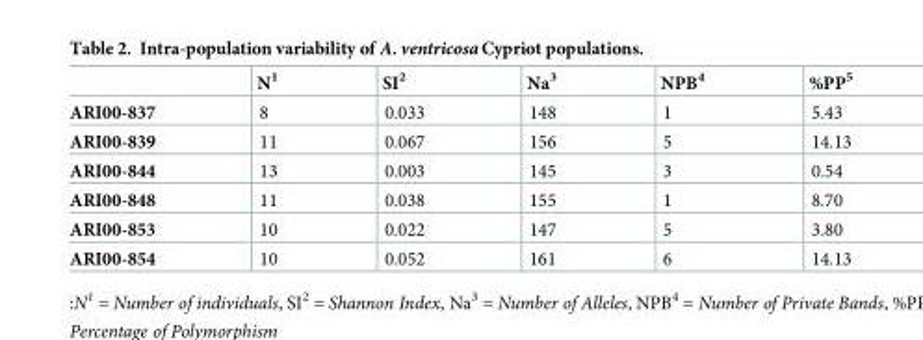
<table><thead><tr><td></td><td>N1</td><td>SI<sup>2</sup></td><td>Na<sup>3</sup></td><td>NPB<sup>4</sup></td><td>%PP<sup>5</sup></td></tr></thead><tbody><tr><td>ARI00-837</td><td>8</td><td>0.033</td><td>148</td><td>1</td><td>5.43</td></tr><tr><td>ARI00-839</td><td>11</td><td>0.067</td><td>156</td><td>5</td><td>14.13</td></tr><tr><td>ARI00-844</td><td>13</td><td>0.003</td><td>145</td><td>3</td><td>0.54</td></tr><tr><td>ARI00-848</td><td>11</td><td>0.038</td><td>155</td><td>1</td><td>8.70</td></tr><tr><td>ARI00-853</td><td>10</td><td>0.022</td><td>147</td><td>5</td><td>3.80</td></tr><tr><td>ARI00-854</td><td>10</td><td>0.052</td><td>161</td><td>6</td><td>14.13</td></tr></tbody></table>